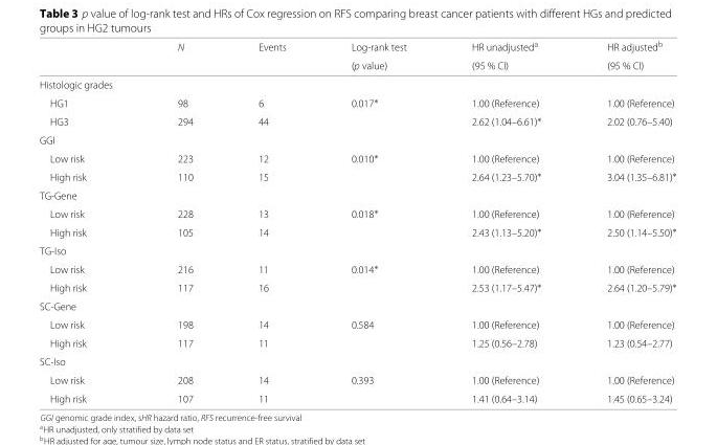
<table><thead><tr><td rowspan="2"></td><td rowspan="2">N</td><td rowspan="2">Events</td><td rowspan="2">Log-rank test (p value)</td><td rowspan="2">HR unadjusted<sup>a</sup> (95 % CI)</td><td rowspan="2">HR adjusted<sup>b</sup> (95 % CI)</td></tr><tr></tr></thead><tbody><tr><td colspan="6">Histologic grades</td></tr><tr><td>HG1</td><td>98</td><td>6</td><td>0.017∗</td><td>1.00 (Reference)</td><td>1.00 (Reference)</td></tr><tr><td>HG3</td><td>294</td><td>44</td><td></td><td>2.62 (1.04–6.61)∗</td><td>2.02 (0.76–5.40)</td></tr><tr><td colspan="6">GGI</td></tr><tr><td>Low risk</td><td>223</td><td>12</td><td>0.010∗</td><td>1.00 (Reference)</td><td>1.00 (Reference)</td></tr><tr><td>High risk</td><td>110</td><td>15</td><td></td><td>2.64 (1.23–5.70)∗</td><td>3.04 (1.35–6.81)∗</td></tr><tr><td colspan="6">TG-Gene</td></tr><tr><td>Low risk</td><td>228</td><td>13</td><td>0.018∗</td><td>1.00 (Reference)</td><td>1.00 (Reference)</td></tr><tr><td>High risk</td><td>105</td><td>14</td><td></td><td>2.43 (1.13–5.20)∗</td><td>2.50 (1.14–5.50)∗</td></tr><tr><td colspan="6">TG-Iso</td></tr><tr><td>Low risk</td><td>216</td><td>11</td><td>0.014∗</td><td>1.00 (Reference)</td><td>1.00 (Reference)</td></tr><tr><td>High risk</td><td>117</td><td>16</td><td></td><td>2.53 (1.17–5.47)∗</td><td>2.64 (1.20–5.79)∗</td></tr><tr><td colspan="6">SC-Gene</td></tr><tr><td>Low risk</td><td>198</td><td>14</td><td>0.584</td><td>1.00 (Reference)</td><td>1.00 (Reference)</td></tr><tr><td>High risk</td><td>117</td><td>11</td><td></td><td>1.25 (0.56–2.78)</td><td>1.23 (0.54–2.77)</td></tr><tr><td colspan="6">SC-Iso</td></tr><tr><td>Low risk</td><td>208</td><td>14</td><td>0.393</td><td>1.00 (Reference)</td><td>1.00 (Reference)</td></tr><tr><td>High risk</td><td>107</td><td>11</td><td></td><td>1.41 (0.64–3.14)</td><td>1.45 (0.65–3.24)</td></tr></tbody></table>